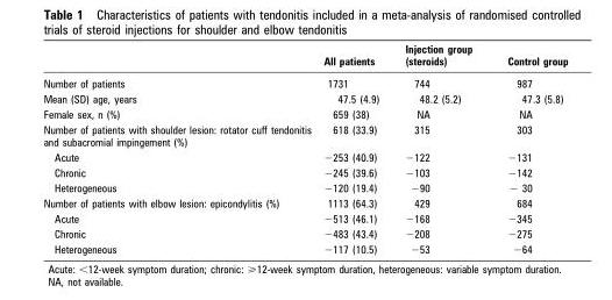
<table><thead><tr><td></td><td>All patients</td><td>Injection group (steroids)</td><td>Control group</td></tr></thead><tbody><tr><td>Number of patients</td><td>1731</td><td>744</td><td>987</td></tr><tr><td>Mean (SD) age, years</td><td>47.5 (4.9)</td><td>48.2 (5.2)</td><td>47.3 (5.8)</td></tr><tr><td>Female sex, n (%)</td><td>659 (38)</td><td>NA</td><td>NA</td></tr><tr><td>Number of patients with shoulder lesion: rotator cuff tendonitis and subacromial impingement (%)</td><td>618 (33.9)</td><td>315</td><td>303</td></tr><tr><td>Acute</td><td>−253 (40.9)</td><td>−122</td><td>−131</td></tr><tr><td>Chronic</td><td>−245 (39.6)</td><td>−103</td><td>−142</td></tr><tr><td>Heterogeneous</td><td>−120 (19.4)</td><td>−90</td><td>− 30</td></tr><tr><td>Number of patients with elbow lesion: epicondylitis (%)</td><td>1113 (64.3)</td><td>429</td><td>684</td></tr><tr><td>Acute</td><td>−513 (46.1)</td><td>−168</td><td>−345</td></tr><tr><td>Chronic</td><td>−483 (43.4)</td><td>−208</td><td>−275</td></tr><tr><td>Heterogeneous</td><td>−117 (10.5)</td><td>−53</td><td>−64</td></tr></tbody></table>